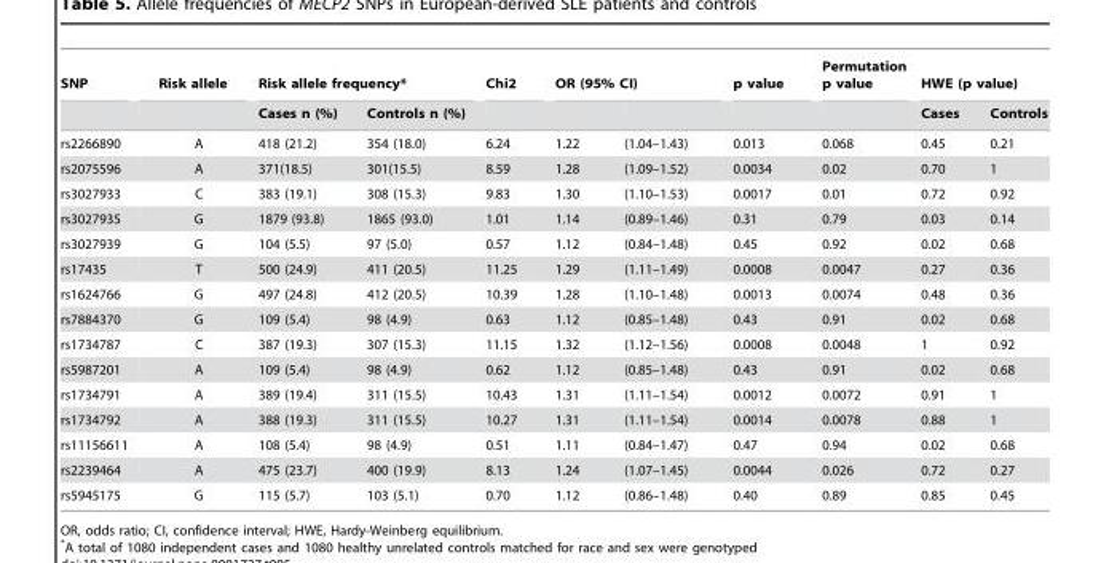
<table><thead><tr><td rowspan="2">SNP</td><td rowspan="2">Risk allele</td><td colspan="2">Risk allele frequency*</td><td rowspan="2">Chi2</td><td colspan="2">OR (95% CI)</td><td rowspan="2">p value</td><td rowspan="2">Permutation p value</td><td colspan="2">HWE (p value)</td></tr><tr><td>Cases n (%)</td><td>Controls n (%)</td><td></td><td></td><td>Cases</td><td>Controls</td></tr></thead><tbody><tr><td>rs2266890</td><td>A</td><td>418 (21.2)</td><td>354 (18.0)</td><td>6.24</td><td>1.22</td><td>(1.04–1.43)</td><td>0.013</td><td>0.068</td><td>0.45</td><td>0.21</td></tr><tr><td>rs2075596</td><td>A</td><td>371(18.5)</td><td>301(15.5)</td><td>8.59</td><td>1.28</td><td>(1.09–1.52)</td><td>0.0034</td><td>0.02</td><td>0.70</td><td>1</td></tr><tr><td>rs3027933</td><td>C</td><td>383 (19.1)</td><td>308 (15.3)</td><td>9.83</td><td>1.30</td><td>(1.10–1.53)</td><td>0.0017</td><td>0.01</td><td>0.72</td><td>0.92</td></tr><tr><td>rs3027935</td><td>G</td><td>1879 (93.8)</td><td>1865 (93.0)</td><td>1.01</td><td>1.14</td><td>(0.89–1.46)</td><td>0.31</td><td>0.79</td><td>0.03</td><td>0.14</td></tr><tr><td>rs3027939</td><td>G</td><td>104 (5.5)</td><td>97 (5.0)</td><td>0.57</td><td>1.12</td><td>(0.84–1.48)</td><td>0.45</td><td>0.92</td><td>0.02</td><td>0.68</td></tr><tr><td>rs17435</td><td>T</td><td>500 (24.9)</td><td>411 (20.5)</td><td>11.25</td><td>1.29</td><td>(1.11–1.49)</td><td>0.0008</td><td>0.0047</td><td>0.27</td><td>0.36</td></tr><tr><td>rs1624766</td><td>G</td><td>497 (24.8)</td><td>412 (20.5)</td><td>10.39</td><td>1.28</td><td>(1.10–1.48)</td><td>0.0013</td><td>0.0074</td><td>0.48</td><td>0.36</td></tr><tr><td>rs7884370</td><td>G</td><td>109 (5.4)</td><td>98 (4.9)</td><td>0.63</td><td>1.12</td><td>(0.85–1.48)</td><td>0.43</td><td>0.91</td><td>0.02</td><td>0.68</td></tr><tr><td>rs1734787</td><td>C</td><td>387 (19.3)</td><td>307 (15.3)</td><td>11.15</td><td>1.32</td><td>(1.12–1.56)</td><td>0.0008</td><td>0.0048</td><td>1</td><td>0.92</td></tr><tr><td>rs5987201</td><td>A</td><td>109 (5.4)</td><td>98 (4.9)</td><td>0.62</td><td>1.12</td><td>(0.85–1.48)</td><td>0.43</td><td>0.91</td><td>0.02</td><td>0.68</td></tr><tr><td>rs1734791</td><td>A</td><td>389 (19.4)</td><td>311 (15.5)</td><td>10.43</td><td>1.31</td><td>(1.11–1.54)</td><td>0.0012</td><td>0.0072</td><td>0.91</td><td>1</td></tr><tr><td>rs1734792</td><td>A</td><td>388 (19.3)</td><td>311 (15.5)</td><td>10.27</td><td>1.31</td><td>(1.11–1.54)</td><td>0.0014</td><td>0.0078</td><td>0.88</td><td>1</td></tr><tr><td>rs11156611</td><td>A</td><td>108 (5.4)</td><td>98 (4.9)</td><td>0.51</td><td>1.11</td><td>(0.84–1.47)</td><td>0.47</td><td>0.94</td><td>0.02</td><td>0.68</td></tr><tr><td>rs2239464</td><td>A</td><td>475 (23.7)</td><td>400 (19.9)</td><td>8.13</td><td>1.24</td><td>(1.07–1.45)</td><td>0.0044</td><td>0.026</td><td>0.72</td><td>0.27</td></tr><tr><td>rs5945175</td><td>G</td><td>115 (5.7)</td><td>103 (5.1)</td><td>0.70</td><td>1.12</td><td>(0.86–1.48)</td><td>0.40</td><td>0.89</td><td>0.85</td><td>0.45</td></tr></tbody></table>